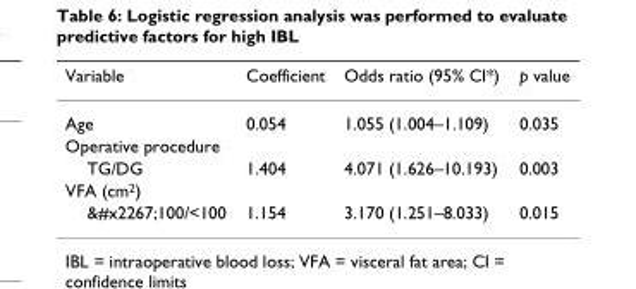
<table><thead><tr><td>Variable</td><td>Coefficient</td><td>Odds ratio (95% CI*)</td><td>p value</td></tr></thead><tbody><tr><td>Age</td><td>0.054</td><td>1.055 (1.004–1.109)</td><td>0.035</td></tr><tr><td colspan="4">Operative procedure</td></tr><tr><td>TG/DG</td><td>1.404</td><td>4.071 (1.626–10.193)</td><td>0.003</td></tr><tr><td colspan="4">VFA (cm<sup>2</sup>)</td></tr><tr><td>&amp;#x2267;100/&lt;100</td><td>1.154</td><td>3.170 (1.251–8.033)</td><td>0.015</td></tr></tbody></table>